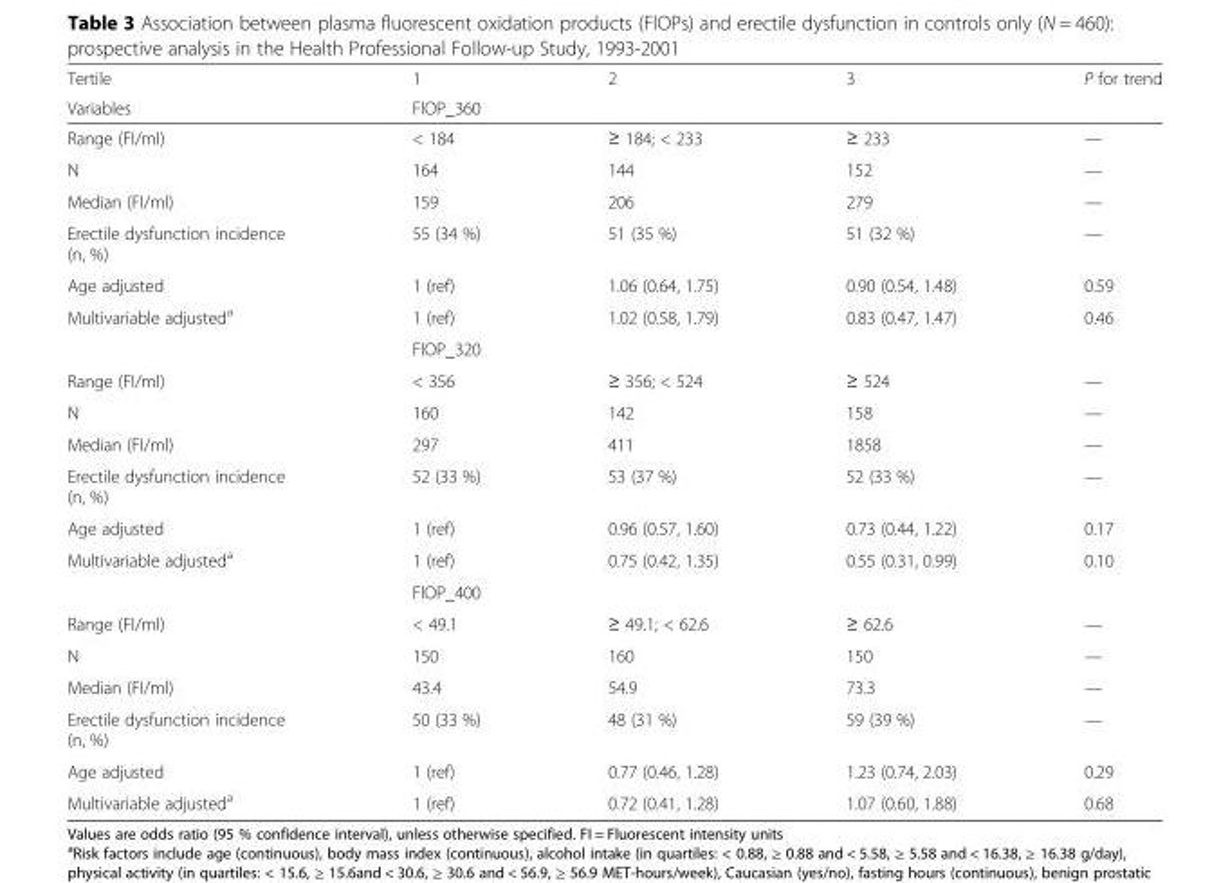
<table><thead><tr><td rowspan="2">Tertile Variables</td><td>1</td><td>2</td><td>3</td><td rowspan="2">P for trend</td></tr><tr><td colspan="3">FlOP_360</td></tr></thead><tbody><tr><td>Range (FI/ml)</td><td>&lt; 184</td><td>≥ 184; &lt; 233</td><td>≥ 233</td><td>—</td></tr><tr><td>N</td><td>164</td><td>144</td><td>152</td><td>—</td></tr><tr><td>Median (FI/ml)</td><td>159</td><td>206</td><td>279</td><td>—</td></tr><tr><td>Erectile dysfunction incidence (n, %)</td><td>55 (34 %)</td><td>51 (35 %)</td><td>51 (32 %)</td><td>—</td></tr><tr><td>Age adjusted</td><td>1 (ref)</td><td>1.06 (0.64, 1.75)</td><td>0.90 (0.54, 1.48)</td><td>0.59</td></tr><tr><td rowspan="2">Multivariable adjusted<sup>a</sup></td><td>1 (ref)</td><td>1.02 (0.58, 1.79)</td><td>0.83 (0.47, 1.47)</td><td>0.46</td></tr><tr><td colspan="3">FlOP_320</td><td></td></tr><tr><td>Range (FI/ml)</td><td>&lt; 356</td><td>≥ 356; &lt; 524</td><td>≥ 524</td><td>—</td></tr><tr><td>N</td><td>160</td><td>142</td><td>158</td><td>—</td></tr><tr><td>Median (FI/ml)</td><td>297</td><td>411</td><td>1858</td><td>—</td></tr><tr><td>Erectile dysfunction incidence (n, %)</td><td>52 (33 %)</td><td>53 (37 %)</td><td>52 (33 %)</td><td>—</td></tr><tr><td>Age adjusted</td><td>1 (ref)</td><td>0.96 (0.57, 1.60)</td><td>0.73 (0.44, 1.22)</td><td>0.17</td></tr><tr><td rowspan="2">Multivariable adjusted<sup>a</sup></td><td>1 (ref)</td><td>0.75 (0.42, 1.35)</td><td>0.55 (0.31, 0.99)</td><td>0.10</td></tr><tr><td colspan="3">FlOP_400</td><td></td></tr><tr><td>Range (FI/ml)</td><td>&lt; 49.1</td><td>≥ 49.1; &lt; 62.6</td><td>≥ 62.6</td><td>—</td></tr><tr><td>N</td><td>150</td><td>160</td><td>150</td><td>—</td></tr><tr><td>Median (FI/ml)</td><td>43.4</td><td>54.9</td><td>73.3</td><td>—</td></tr><tr><td>Erectile dysfunction incidence (n, %)</td><td>50 (33 %)</td><td>48 (31 %)</td><td>59 (39 %)</td><td>—</td></tr><tr><td>Age adjusted</td><td>1 (ref)</td><td>0.77 (0.46, 1.28)</td><td>1.23 (0.74, 2.03)</td><td>0.29</td></tr><tr><td>Multivariable adjusted<sup>a</sup></td><td>1 (ref)</td><td>0.72 (0.41, 1.28)</td><td>1.07 (0.60, 1.88)</td><td>0.68</td></tr></tbody></table>